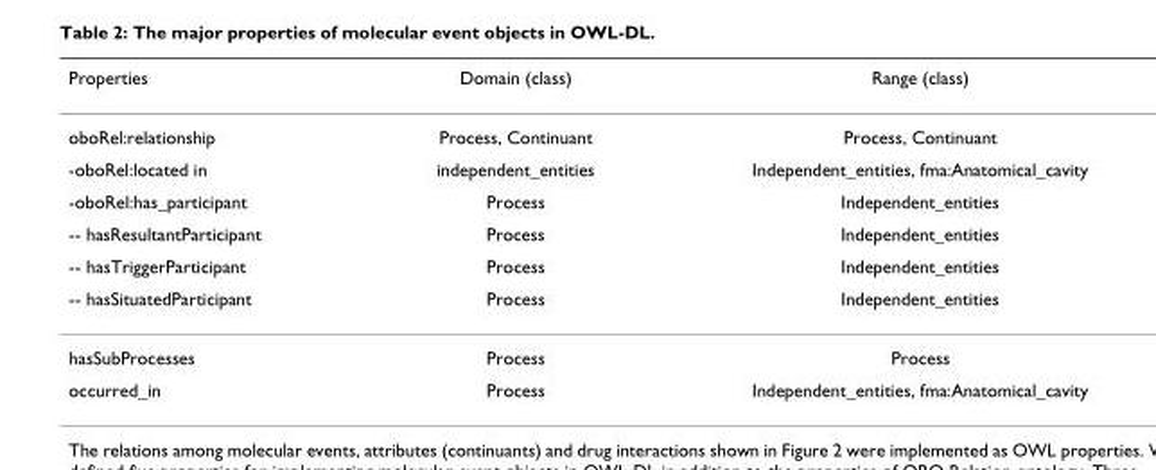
<table><thead><tr><td>Properties</td><td>Domain (class)</td><td>Range (class)</td></tr></thead><tbody><tr><td>oboRel:relationship</td><td>Process, Continuant</td><td>Process, Continuant</td></tr><tr><td>-oboRel:located in</td><td>independent_entities</td><td>Independent_entities, fma:Anatomical_cavity</td></tr><tr><td>-oboRel:has_participant</td><td>Process</td><td>Independent_entities</td></tr><tr><td>-- hasResultantParticipant</td><td>Process</td><td>Independent_entities</td></tr><tr><td>-- hasTriggerParticipant</td><td>Process</td><td>Independent_entities</td></tr><tr><td>-- hasSituatedParticipant</td><td>Process</td><td>Independent_entities</td></tr><tr><td>hasSubProcesses</td><td>Process</td><td>Process</td></tr><tr><td>occurred_in</td><td>Process</td><td>Independent_entities, fma:Anatomical_cavity</td></tr></tbody></table>